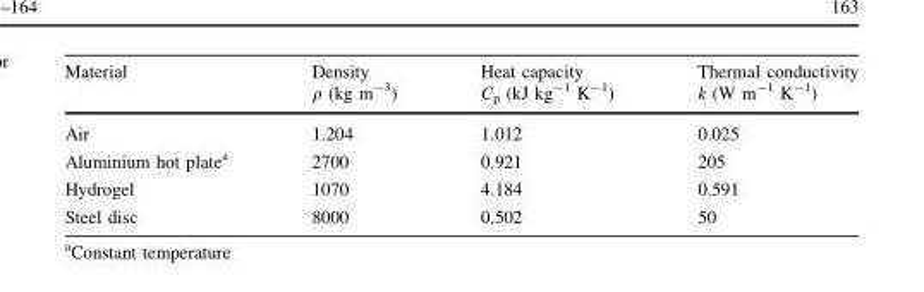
<table><thead><tr><td>Material</td><td>Density ρ (kg m<sup>-3</sup>)</td><td>Heat capacity C<sub>p</sub> (kJ kg<sup>-1</sup> K<sup>-1</sup>)</td><td>Thermal conductivity k (W m<sup>-1</sup> K<sup>-1</sup>)</td></tr></thead><tbody><tr><td>Air</td><td>1.204</td><td>1.012</td><td>0.025</td></tr><tr><td>Aluminium hot plate<sup>a</sup></td><td>2700</td><td>0.921</td><td>205</td></tr><tr><td>Hydrogel</td><td>1070</td><td>4.184</td><td>0.591</td></tr><tr><td>Steel disc</td><td>8000</td><td>0.502</td><td>50</td></tr></tbody></table>